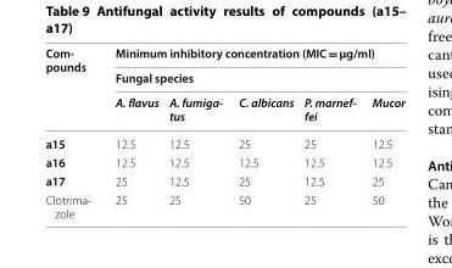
<table><thead><tr><td rowspan="3">Com- pounds</td><td rowspan="2" colspan="5">Minimum inhibitory concentration (MIC = µg/ml) Fungal species</td></tr><tr></tr><tr><td>A. flavus</td><td>A. fumiga- tus</td><td>C. albicans</td><td>P. marnef- fei</td><td>Mucor</td></tr></thead><tbody><tr><td>a15</td><td>12.5</td><td>12.5</td><td>25</td><td>25</td><td>12.5</td></tr><tr><td>a16</td><td>12.5</td><td>12.5</td><td>12.5</td><td>12.5</td><td>12.5</td></tr><tr><td>a17</td><td>25</td><td>12.5</td><td>25</td><td>12.5</td><td>25</td></tr><tr><td>Clotrima- zole</td><td>25</td><td>25</td><td>50</td><td>25</td><td>50</td></tr></tbody></table>